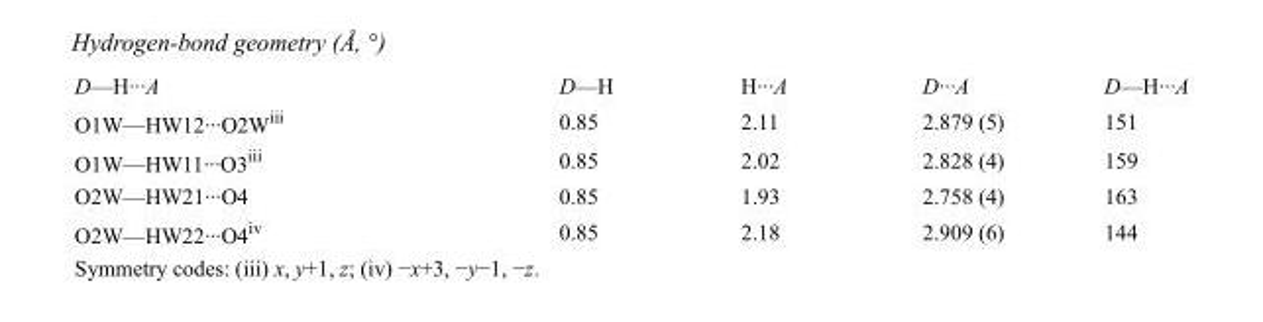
<table><tbody><tr><td>D—H···A</td><td>D—H</td><td>H···A</td><td>D···A</td><td>D—H···A</td></tr><tr><td>O1W—HW12···O2W<sup>iii</sup></td><td>0.85</td><td>2.11</td><td>2.879 (5)</td><td>151</td></tr><tr><td>O1W—HW11···O3<sup>iii</sup></td><td>0.85</td><td>2.02</td><td>2.828 (4)</td><td>159</td></tr><tr><td>O2W—HW21···O4</td><td>0.85</td><td>1.93</td><td>2.758 (4)</td><td>163</td></tr><tr><td>O2W—HW22···O4<sup>iv</sup></td><td>0.85</td><td>2.18</td><td>2.909 (6)</td><td>144</td></tr></tbody></table>